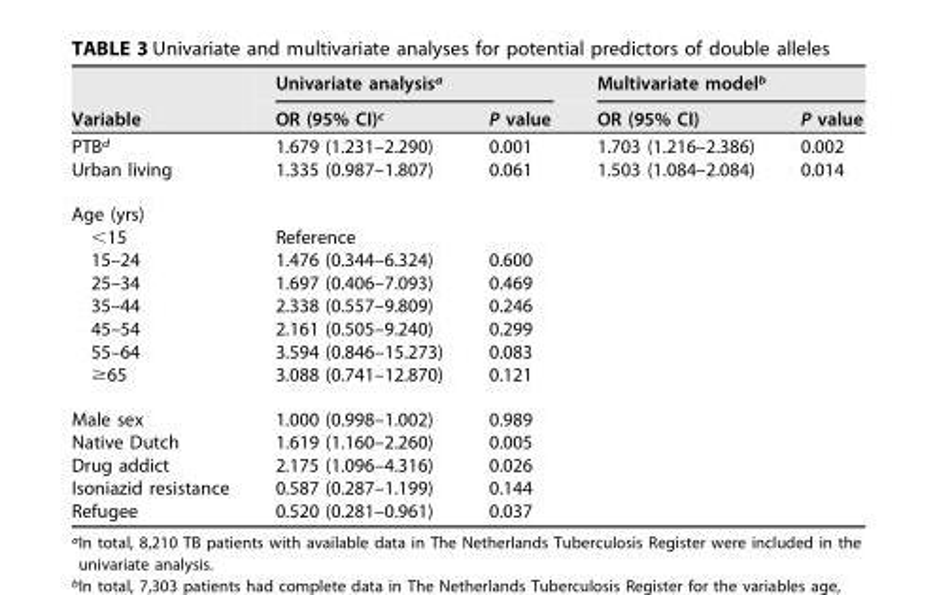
<table><thead><tr><td rowspan="2">Variable</td><td colspan="2">Univariate analysis<sup>a</sup></td><td colspan="2">Multivariate model<sup>b</sup></td></tr><tr><td>OR (95% CI)<sup>c</sup></td><td>P value</td><td>OR (95% CI)</td><td>P value</td></tr></thead><tbody><tr><td>PTB<sup>d</sup></td><td>1.679 (1.231–2.290)</td><td>0.001</td><td>1.703 (1.216–2.386)</td><td>0.002</td></tr><tr><td>Urban living</td><td>1.335 (0.987–1.807)</td><td>0.061</td><td>1.503 (1.084–2.084)</td><td>0.014</td></tr><tr><td colspan="5">Age (yrs)</td></tr><tr><td>&lt;15</td><td>Reference</td><td></td><td></td><td></td></tr><tr><td>15–24</td><td>1.476 (0.344–6.324)</td><td>0.600</td><td></td><td></td></tr><tr><td>25–34</td><td>1.697 (0.406–7.093)</td><td>0.469</td><td></td><td></td></tr><tr><td>35–44</td><td>2.338 (0.557–9.809)</td><td>0.246</td><td></td><td></td></tr><tr><td>45–54</td><td>2.161 (0.505–9.240)</td><td>0.299</td><td></td><td></td></tr><tr><td>55–64</td><td>3.594 (0.846–15.273)</td><td>0.083</td><td></td><td></td></tr><tr><td>≥65</td><td>3.088 (0.741–12.870)</td><td>0.121</td><td></td><td></td></tr><tr><td>Male sex</td><td>1.000 (0.998–1.002)</td><td>0.989</td><td></td><td></td></tr><tr><td>Native Dutch</td><td>1.619 (1.160–2.260)</td><td>0.005</td><td></td><td></td></tr><tr><td>Drug addict</td><td>2.175 (1.096–4.316)</td><td>0.026</td><td></td><td></td></tr><tr><td>Isoniazid resistance</td><td>0.587 (0.287–1.199)</td><td>0.144</td><td></td><td></td></tr><tr><td>Refugee</td><td>0.520 (0.281–0.961)</td><td>0.037</td><td></td><td></td></tr></tbody></table>